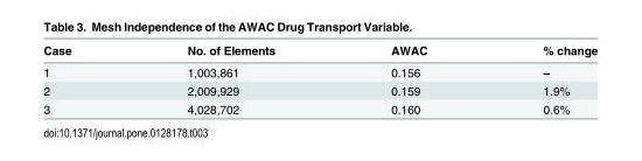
<table><thead><tr><td>Case</td><td>No. of Elements</td><td>AWAC</td><td>% change</td></tr></thead><tbody><tr><td>1</td><td>1,003,861</td><td>0.156</td><td>–</td></tr><tr><td>2</td><td>2,009,929</td><td>0.159</td><td>1.9%</td></tr><tr><td>3</td><td>4,028,702</td><td>0.160</td><td>0.6%</td></tr></tbody></table>